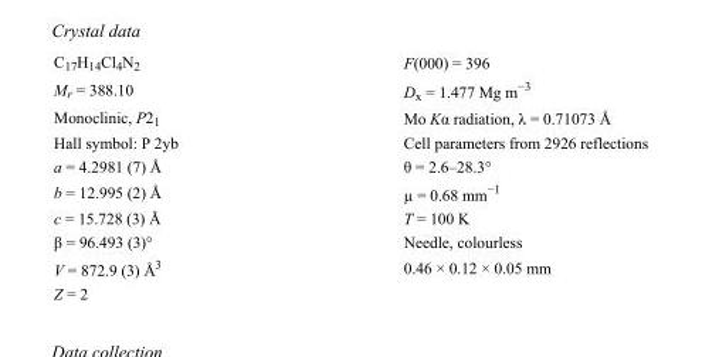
<table><tbody><tr><td>C<sub>17</sub>H<sub>14</sub>Cl<sub>4</sub>N<sub>2</sub></td><td>F(000) = 396</td></tr><tr><td>M<sub>r</sub> = 388.10</td><td>D<sub>x</sub> = 1.477 Mg m<sup>−3</sup></td></tr><tr><td>Monoclinic, P2<sub>1</sub></td><td>Mo Kα radiation, λ = 0.71073 Å</td></tr><tr><td>Hall symbol: P 2yb</td><td>Cell parameters from 2926 reflections</td></tr><tr><td>a = 4.2981 (7) Å</td><td>θ = 2.6–28.3°</td></tr><tr><td>b = 12.995 (2) Å</td><td>µ = 0.68 mm<sup>−1</sup></td></tr><tr><td>c = 15.728 (3) Å</td><td>T = 100 K</td></tr><tr><td>β = 96.493 (3)°</td><td>Needle, colourless</td></tr><tr><td>V = 872.9 (3) Å<sup>3</sup></td><td>0.46 × 0.12 × 0.05 mm</td></tr><tr><td>Z = 2</td><td></td></tr></tbody></table>